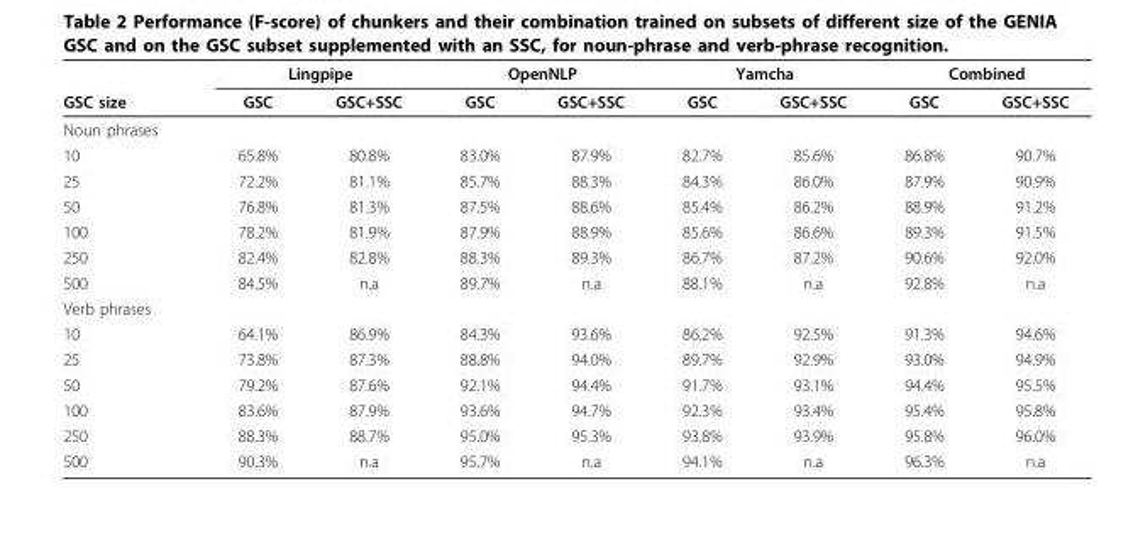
<table><thead><tr><td rowspan="2">GSC size</td><td colspan="2">Lingpipe</td><td colspan="2">OpenNLP</td><td colspan="2">Yamcha</td><td colspan="2">Combined</td></tr><tr><td>GSC</td><td>GSC+SSC</td><td>GSC</td><td>GSC+SSC</td><td>GSC</td><td>GSC+SSC</td><td>GSC</td><td>GSC+SSC</td></tr></thead><tbody><tr><td colspan="9">Noun phrases</td></tr><tr><td>10</td><td>65.8%</td><td>80.8%</td><td>83.0%</td><td>87.9%</td><td>82.7%</td><td>85.6%</td><td>86.8%</td><td>90.7%</td></tr><tr><td>25</td><td>72.2%</td><td>81.1%</td><td>85.7%</td><td>88.3%</td><td>84.3%</td><td>86.0%</td><td>87.9%</td><td>90.9%</td></tr><tr><td>50</td><td>76.8%</td><td>81.3%</td><td>87.5%</td><td>88.6%</td><td>85.4%</td><td>86.2%</td><td>88.9%</td><td>91.2%</td></tr><tr><td>100</td><td>78.2%</td><td>81.9%</td><td>87.9%</td><td>88.9%</td><td>85.6%</td><td>86.6%</td><td>89.3%</td><td>91.5%</td></tr><tr><td>250</td><td>82.4%</td><td>82.8%</td><td>88.3%</td><td>89.3%</td><td>86.7%</td><td>87.2%</td><td>90.6%</td><td>92.0%</td></tr><tr><td>500</td><td>84.5%</td><td>n.a</td><td>89.7%</td><td>n.a</td><td>88.1%</td><td>n.a</td><td>92.8%</td><td>n.a</td></tr><tr><td colspan="9">Verb phrases</td></tr><tr><td>10</td><td>64.1%</td><td>86.9%</td><td>84.3%</td><td>93.6%</td><td>86.2%</td><td>92.5%</td><td>91.3%</td><td>94.6%</td></tr><tr><td>25</td><td>73.8%</td><td>87.3%</td><td>88.8%</td><td>94.0%</td><td>89.7%</td><td>92.9%</td><td>93.0%</td><td>94.9%</td></tr><tr><td>50</td><td>79.2%</td><td>87.6%</td><td>92.1%</td><td>94.4%</td><td>91.7%</td><td>93.1%</td><td>94.4%</td><td>95.5%</td></tr><tr><td>100</td><td>83.6%</td><td>87.9%</td><td>93.6%</td><td>94.7%</td><td>92.3%</td><td>93.4%</td><td>95.4%</td><td>95.8%</td></tr><tr><td>250</td><td>88.3%</td><td>88.7%</td><td>95.0%</td><td>95.3%</td><td>93.8%</td><td>93.9%</td><td>95.8%</td><td>96.0%</td></tr><tr><td>500</td><td>90.3%</td><td>n.a</td><td>95.7%</td><td>n.a</td><td>94.1%</td><td>n.a</td><td>96.3%</td><td>n.a</td></tr></tbody></table>